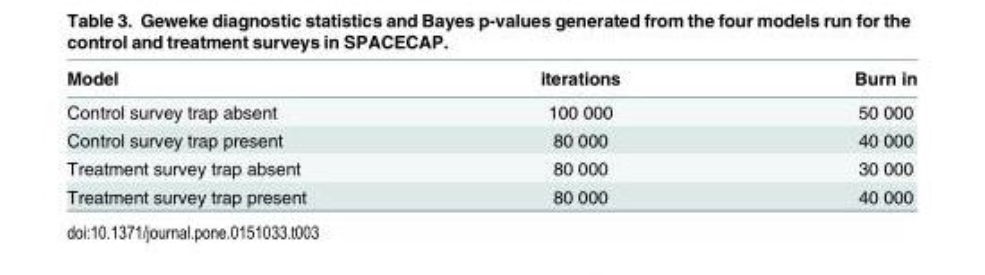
<table><thead><tr><td>Model</td><td>iterations</td><td>Burn in</td></tr></thead><tbody><tr><td>Control survey trap absent</td><td>100 000</td><td>50 000</td></tr><tr><td>Control survey trap present</td><td>80 000</td><td>40 000</td></tr><tr><td>Treatment survey trap absent</td><td>80 000</td><td>30 000</td></tr><tr><td>Treatment survey trap present</td><td>80 000</td><td>40 000</td></tr></tbody></table>